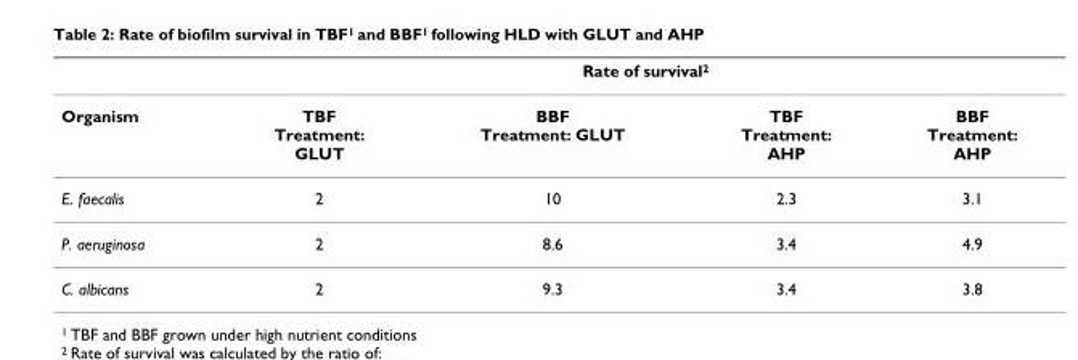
<table><thead><tr><td rowspan="2">Organism</td><td colspan="4">Rate of survival<sup>2</sup></td></tr><tr><td>TBF Treatment: GLUT</td><td>BBF Treatment: GLUT</td><td>TBF Treatment: AHP</td><td>BBF Treatment: AHP</td></tr></thead><tbody><tr><td>E. faecalis</td><td>2</td><td>10</td><td>2.3</td><td>3.1</td></tr><tr><td>P. aeruginosa</td><td>2</td><td>8.6</td><td>3.4</td><td>4.9</td></tr><tr><td>C. albicans</td><td>2</td><td>9.3</td><td>3.4</td><td>3.8</td></tr></tbody></table>